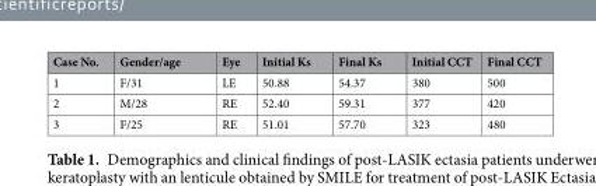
<table><thead><tr><td>Case No.</td><td>Gender/age</td><td>Eye</td><td>Initial Ks</td><td>Final Ks</td><td>Initial CCT</td><td>Final CCT</td></tr></thead><tbody><tr><td>1</td><td>F/31</td><td>LE</td><td>50.88</td><td>54.37</td><td>380</td><td>500</td></tr><tr><td>2</td><td>M/28</td><td>RE</td><td>52.40</td><td>59.31</td><td>377</td><td>420</td></tr><tr><td>3</td><td>F/25</td><td>RE</td><td>51.01</td><td>57.70</td><td>323</td><td>480</td></tr></tbody></table>